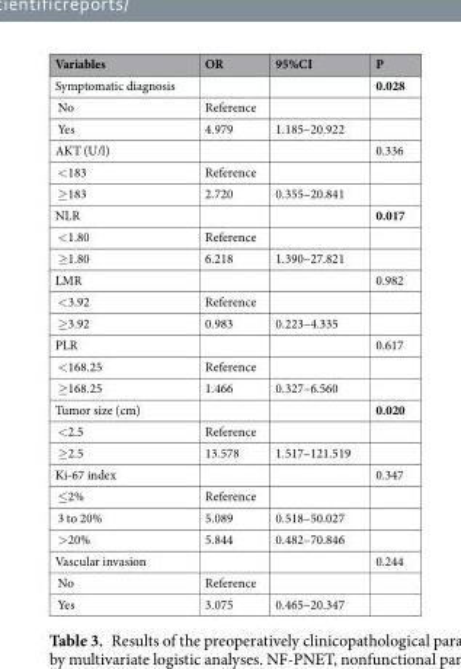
<table><thead><tr><td>Variables</td><td>OR</td><td>95%CI</td><td>P</td></tr></thead><tbody><tr><td>Symptomatic diagnosis</td><td></td><td></td><td>0.028</td></tr><tr><td>No</td><td>Reference</td><td></td><td></td></tr><tr><td>Yes</td><td>4.979</td><td>1.185–20.922</td><td></td></tr><tr><td>AKT (U/l)</td><td></td><td></td><td>0.336</td></tr><tr><td>&lt;183</td><td>Reference</td><td></td><td></td></tr><tr><td>≥183</td><td>2.720</td><td>0.355–20.841</td><td></td></tr><tr><td>NLR</td><td></td><td></td><td>0.017</td></tr><tr><td>&lt;1.80</td><td>Reference</td><td></td><td></td></tr><tr><td>≥1.80</td><td>6.218</td><td>1.390–27.821</td><td></td></tr><tr><td>LMR</td><td></td><td></td><td>0.982</td></tr><tr><td>&lt;3.92</td><td>Reference</td><td></td><td></td></tr><tr><td>≥3.92</td><td>0.983</td><td>0.223–4.335</td><td></td></tr><tr><td>PLR</td><td></td><td></td><td>0.617</td></tr><tr><td>&lt;168.25</td><td>Reference</td><td></td><td></td></tr><tr><td>≥168.25</td><td>1.466</td><td>0.327–6.560</td><td></td></tr><tr><td>Tumor size (cm)</td><td></td><td></td><td>0.020</td></tr><tr><td>&lt;2.5</td><td>Reference</td><td></td><td></td></tr><tr><td>≥2.5</td><td>13.578</td><td>1.517–121.519</td><td></td></tr><tr><td>Ki-67 index</td><td></td><td></td><td>0.347</td></tr><tr><td>≤2%</td><td>Reference</td><td></td><td></td></tr><tr><td>3 to 20%</td><td>5.089</td><td>0.518–50.027</td><td></td></tr><tr><td>&gt;20%</td><td>5.844</td><td>0.482–70.846</td><td></td></tr><tr><td>Vascular invasion</td><td></td><td></td><td>0.244</td></tr><tr><td>No</td><td>Reference</td><td></td><td></td></tr><tr><td>Yes</td><td>3.075</td><td>0.465–20.347</td><td></td></tr></tbody></table>